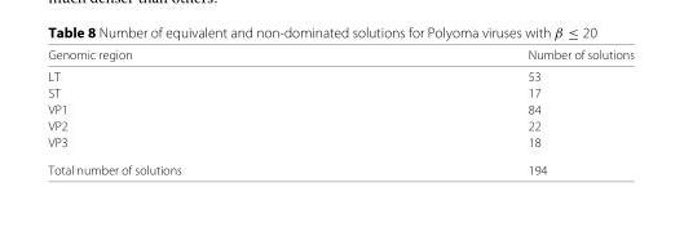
<table><thead><tr><td>Genomic region</td><td>Number of solutions</td></tr></thead><tbody><tr><td>LT</td><td>53</td></tr><tr><td>ST</td><td>17</td></tr><tr><td>VP1</td><td>84</td></tr><tr><td>VP2</td><td>22</td></tr><tr><td>VP3</td><td>18</td></tr><tr><td>Total number of solutions</td><td>194</td></tr></tbody></table>